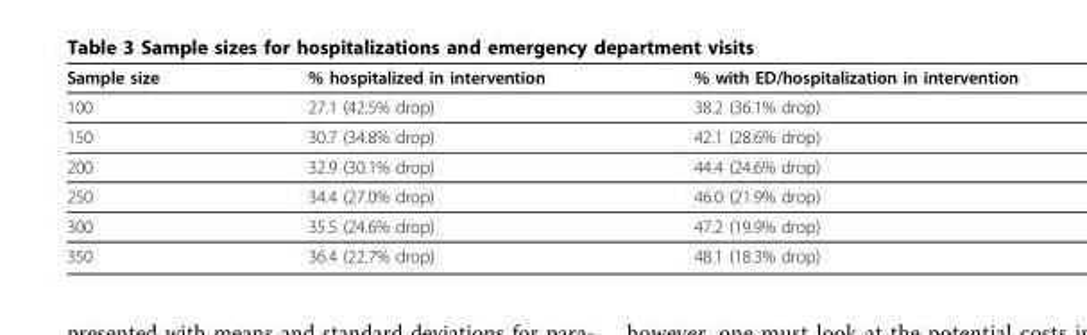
<table><thead><tr><td>Sample size</td><td>% hospitalized in intervention</td><td>% with ED/hospitalization in intervention</td></tr></thead><tbody><tr><td>100</td><td>27.1 (42.5% drop)</td><td>38.2 (36.1% drop)</td></tr><tr><td>150</td><td>30.7 (34.8% drop)</td><td>42.1 (28.6% drop)</td></tr><tr><td>200</td><td>32.9 (30.1% drop)</td><td>44.4 (24.6% drop)</td></tr><tr><td>250</td><td>34.4 (27.0% drop)</td><td>46.0 (21.9% drop)</td></tr><tr><td>300</td><td>35.5 (24.6% drop)</td><td>47.2 (19.9% drop)</td></tr><tr><td>350</td><td>36.4 (22.7% drop)</td><td>48.1 (18.3% drop)</td></tr></tbody></table>